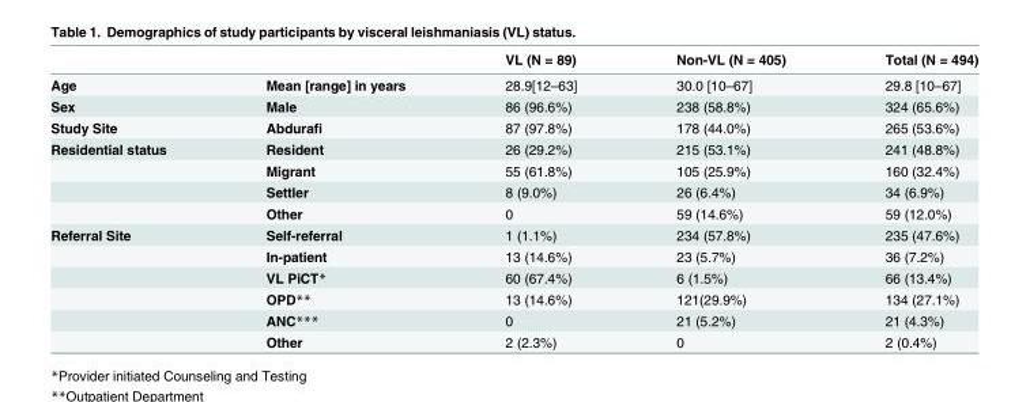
<table><thead><tr><td></td><td></td><td>VL (N = 89)</td><td>Non-VL (N = 405)</td><td>Total (N = 494)</td></tr></thead><tbody><tr><td>Age</td><td>Mean [range] in years</td><td>28.9[12–63]</td><td>30.0 [10–67]</td><td>29.8 [10–67]</td></tr><tr><td>Sex</td><td>Male</td><td>86 (96.6%)</td><td>238 (58.8%)</td><td>324 (65.6%)</td></tr><tr><td>Study Site</td><td>Abdurafi</td><td>87 (97.8%)</td><td>178 (44.0%)</td><td>265 (53.6%)</td></tr><tr><td rowspan="4">Residential status</td><td>Resident</td><td>26 (29.2%)</td><td>215 (53.1%)</td><td>241 (48.8%)</td></tr><tr><td>Migrant</td><td>55 (61.8%)</td><td>105 (25.9%)</td><td>160 (32.4%)</td></tr><tr><td>Settler</td><td>8 (9.0%)</td><td>26 (6.4%)</td><td>34 (6.9%)</td></tr><tr><td>Other</td><td>0</td><td>59 (14.6%)</td><td>59 (12.0%)</td></tr><tr><td rowspan="6">Referral Site</td><td>Self-referral</td><td>1 (1.1%)</td><td>234 (57.8%)</td><td>235 (47.6%)</td></tr><tr><td>In-patient</td><td>13 (14.6%)</td><td>23 (5.7%)</td><td>36 (7.2%)</td></tr><tr><td>VL PiCT*</td><td>60 (67.4%)</td><td>6 (1.5%)</td><td>66 (13.4%)</td></tr><tr><td>OPD**</td><td>13 (14.6%)</td><td>121(29.9%)</td><td>134 (27.1%)</td></tr><tr><td>ANC***</td><td>0</td><td>21 (5.2%)</td><td>21 (4.3%)</td></tr><tr><td>Other</td><td>2 (2.3%)</td><td>0</td><td>2 (0.4%)</td></tr></tbody></table>